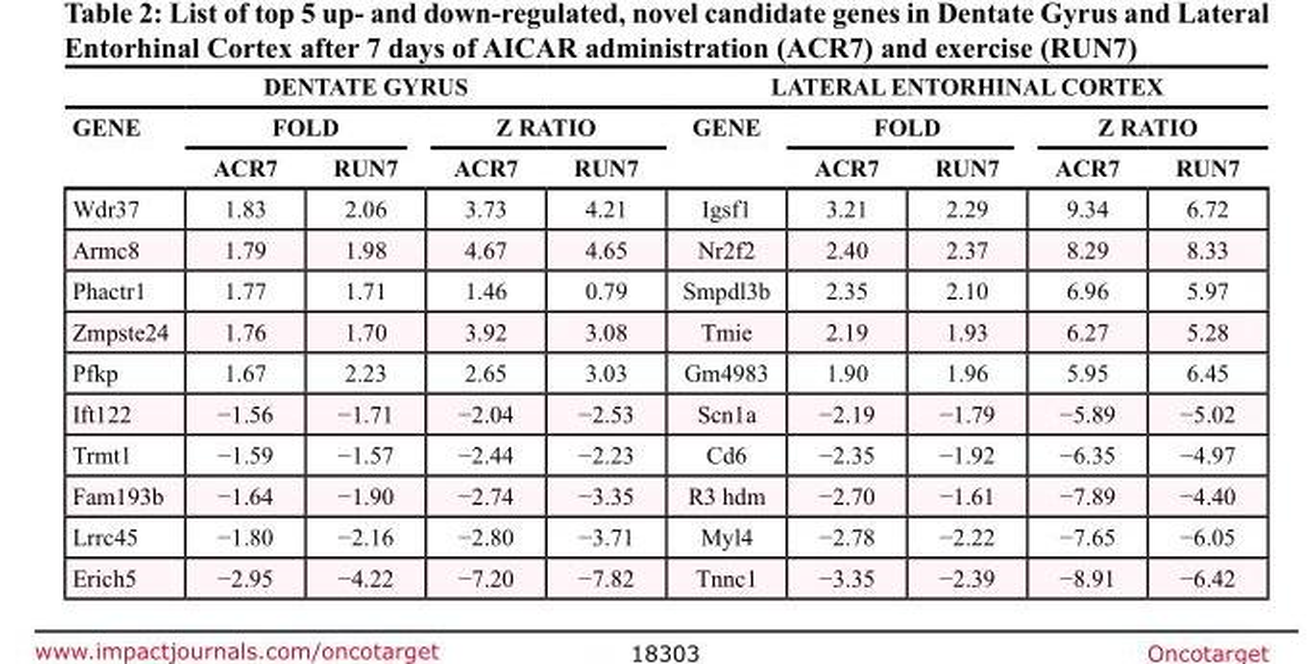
<table><thead><tr><td colspan="5">DENTATE GYRUS</td><td colspan="5">LATERAL ENTORHINAL CORTEX</td></tr><tr><td rowspan="2">GENE</td><td colspan="2">FOLD</td><td colspan="2">Z RATIO</td><td rowspan="2">GENE</td><td colspan="2">FOLD</td><td colspan="2">Z RATIO</td></tr><tr><td>ACR7</td><td>RUN7</td><td>ACR7</td><td>RUN7</td><td>ACR7</td><td>RUN7</td><td>ACR7</td><td>RUN7</td></tr></thead><tbody><tr><td>Wdr37</td><td>1.83</td><td>2.06</td><td>3.73</td><td>4.21</td><td>Igsf1</td><td>3.21</td><td>2.29</td><td>9.34</td><td>6.72</td></tr><tr><td>Armc8</td><td>1.79</td><td>1.98</td><td>4.67</td><td>4.65</td><td>Nr2f2</td><td>2.40</td><td>2.37</td><td>8.29</td><td>8.33</td></tr><tr><td>Phactr1</td><td>1.77</td><td>1.71</td><td>1.46</td><td>0.79</td><td>Smpdl3b</td><td>2.35</td><td>2.10</td><td>6.96</td><td>5.97</td></tr><tr><td>Zmpste24</td><td>1.76</td><td>1.70</td><td>3.92</td><td>3.08</td><td>Tmie</td><td>2.19</td><td>1.93</td><td>6.27</td><td>5.28</td></tr><tr><td>Pfkp</td><td>1.67</td><td>2.23</td><td>2.65</td><td>3.03</td><td>Gm4983</td><td>1.90</td><td>1.96</td><td>5.95</td><td>6.45</td></tr><tr><td>Ift122</td><td>−1.56</td><td>−1.71</td><td>−2.04</td><td>−2.53</td><td>Scn1a</td><td>−2.19</td><td>−1.79</td><td>−5.89</td><td>−5.02</td></tr><tr><td>Trmt1</td><td>−1.59</td><td>−1.57</td><td>−2.44</td><td>−2.23</td><td>Cd6</td><td>−2.35</td><td>−1.92</td><td>−6.35</td><td>−4.97</td></tr><tr><td>Fam193b</td><td>−1.64</td><td>−1.90</td><td>−2.74</td><td>−3.35</td><td>R3 hdm</td><td>−2.70</td><td>−1.61</td><td>−7.89</td><td>−4.40</td></tr><tr><td>Lrrc45</td><td>−1.80</td><td>−2.16</td><td>−2.80</td><td>−3.71</td><td>Myl4</td><td>−2.78</td><td>−2.22</td><td>−7.65</td><td>−6.05</td></tr><tr><td>Erich5</td><td>−2.95</td><td>−4.22</td><td>−7.20</td><td>−7.82</td><td>Tnnc1</td><td>−3.35</td><td>−2.39</td><td>−8.91</td><td>−6.42</td></tr></tbody></table>